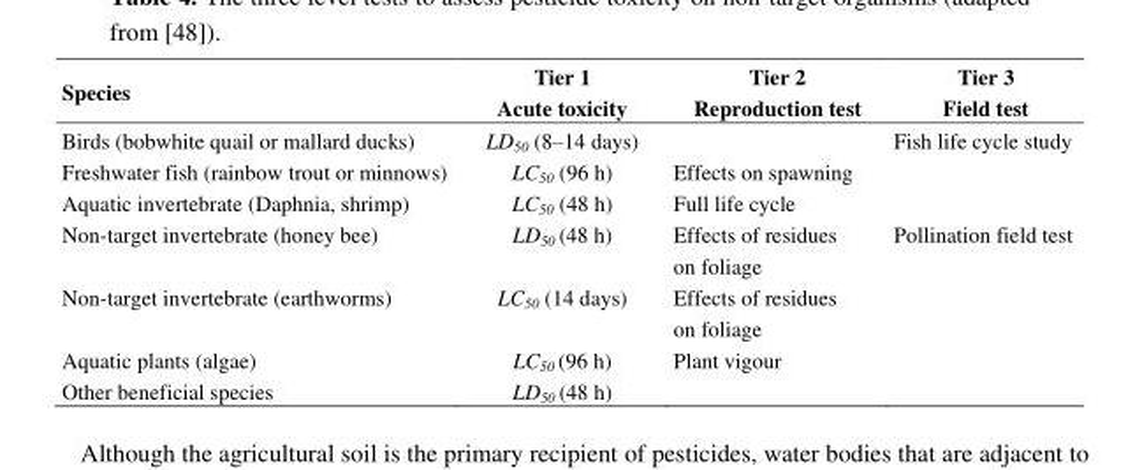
<table><thead><tr><td>Species</td><td>Tier 1 Acute toxicity</td><td>Tier 2 Reproduction test</td><td>Tier 3 Field test</td></tr></thead><tbody><tr><td>Birds (bobwhite quail or mallard ducks)</td><td>LD<sub>50</sub> (8–14 days)</td><td></td><td>Fish life cycle study</td></tr><tr><td>Freshwater fish (rainbow trout or minnows)</td><td>LC<sub>50</sub> (96 h)</td><td>Effects on spawning</td><td></td></tr><tr><td>Aquatic invertebrate (Daphnia, shrimp)</td><td>LC<sub>50</sub> (48 h)</td><td>Full life cycle</td><td></td></tr><tr><td>Non-target invertebrate (honey bee)</td><td>LD<sub>50</sub> (48 h)</td><td>Effects of residues on foliage</td><td>Pollination field test</td></tr><tr><td>Non-target invertebrate (earthworms)</td><td>LC<sub>50</sub> (14 days)</td><td>Effects of residues on foliage</td><td></td></tr><tr><td>Aquatic plants (algae)</td><td>LC<sub>50</sub> (96 h)</td><td>Plant vigour</td><td></td></tr><tr><td>Other beneficial species</td><td>LD<sub>50</sub> (48 h)</td><td></td><td></td></tr></tbody></table>